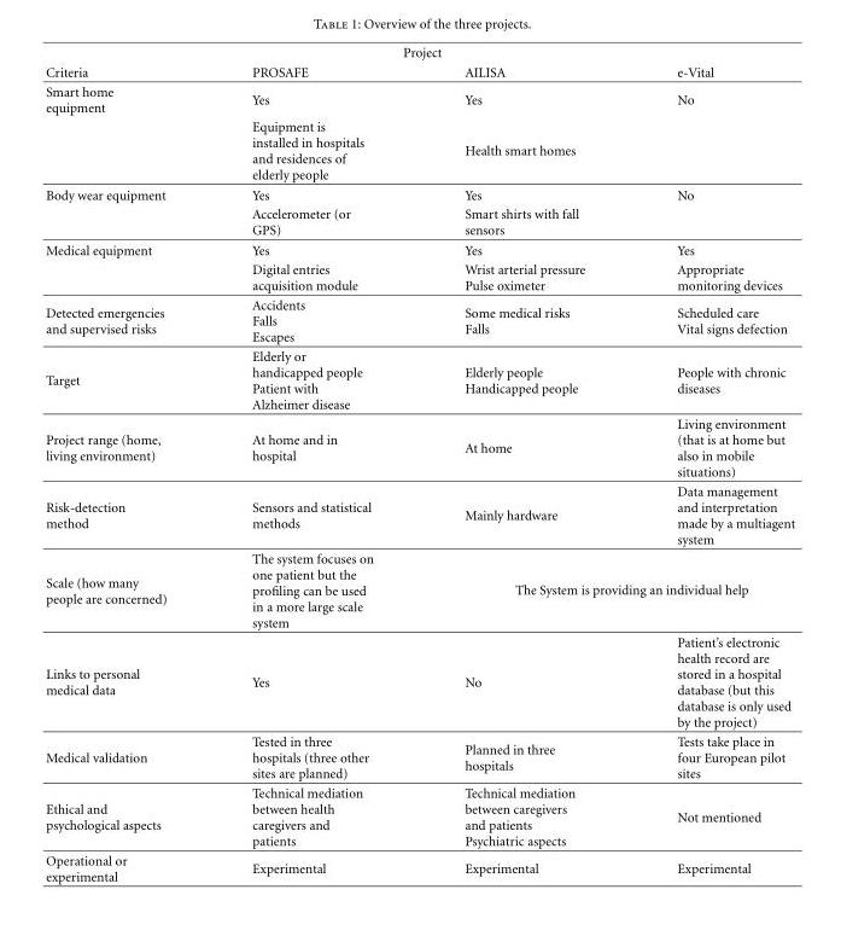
<table><thead><tr><td colspan="4">Project</td></tr><tr><td>Criteria</td><td>PROSAFE</td><td>AILISA</td><td>e-Vital</td></tr></thead><tbody><tr><td rowspan="2">Smart home equipment</td><td>Yes</td><td>Yes</td><td>No</td></tr><tr><td>Equipment is installed in hospitals and residences of elderly people</td><td>Health smart homes</td><td></td></tr><tr><td rowspan="2">Body wear equipment</td><td>Yes</td><td>Yes</td><td>No</td></tr><tr><td>Accelerometer (or GPS)</td><td>Smart shirts with fall sensors</td><td></td></tr><tr><td rowspan="2">Medical equipment</td><td>Yes</td><td>Yes</td><td>Yes</td></tr><tr><td>Digital entries acquisition module</td><td>Wrist arterial pressure Pulse oximeter</td><td>Appropriate monitoring devices</td></tr><tr><td>Detected emergencies and supervised risks</td><td>Accidents Falls Escapes</td><td>Some medical risks Falls</td><td>Scheduled care Vital signs defection</td></tr><tr><td>Target</td><td>Elderly or handicapped people Patient with Alzheimer disease</td><td>Elderly people Handicapped people</td><td>People with chronic diseases</td></tr><tr><td>Project range (home, living environment)</td><td>At home and in hospital</td><td>At home</td><td>Living environment (that is at home but also in mobile situations)</td></tr><tr><td>Risk-detection method</td><td>Sensors and statistical methods</td><td>Mainly hardware</td><td>Data management and interpretation made by a multiagent system</td></tr><tr><td>Scale (how many people are concerned)</td><td>The system focuses on one patient but the profiling can be used in a more large scale system</td><td colspan="2">The System is providing an individual help</td></tr><tr><td>Links to personal medical data</td><td>Yes</td><td>No</td><td>Patient’s electronic health record are stored in a hospital database (but this database is only used by the project)</td></tr><tr><td>Medical validation</td><td>Tested in three hospitals (three other sites are planned)</td><td>Planned in three hospitals</td><td>Tests take place in four European pilot sites</td></tr><tr><td>Ethical and psychological aspects</td><td>Technical mediation between health caregivers and patients</td><td>Technical mediation between caregivers and patients Psychiatric aspects</td><td>Not mentioned</td></tr><tr><td>Operational or experimental</td><td>Experimental</td><td>Experimental</td><td>Experimental</td></tr></tbody></table>